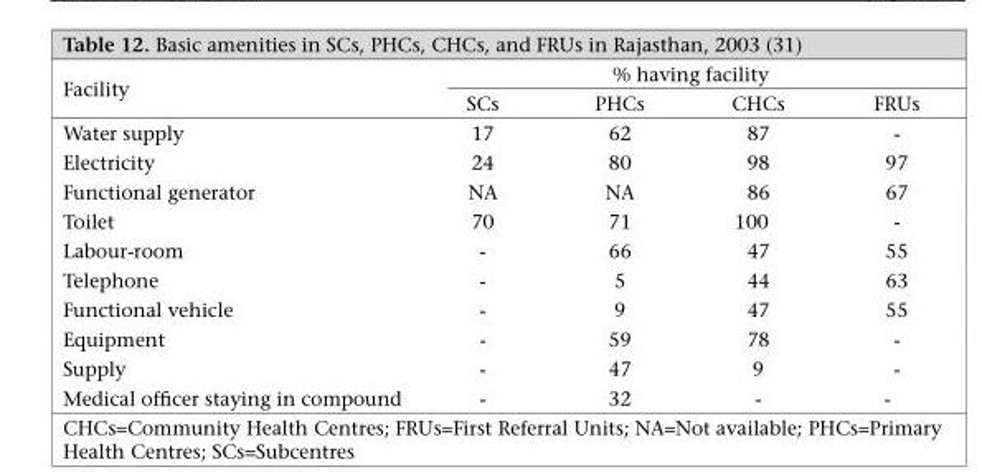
<table><thead><tr><td rowspan="2">Facility</td><td colspan="4">% having facility</td></tr><tr><td>SCs</td><td>PHCs</td><td>CHCs</td><td>FRUs</td></tr></thead><tbody><tr><td>Water supply</td><td>17</td><td>62</td><td>87</td><td>-</td></tr><tr><td>Electricity</td><td>24</td><td>80</td><td>98</td><td>97</td></tr><tr><td>Functional generator</td><td>NA</td><td>NA</td><td>86</td><td>67</td></tr><tr><td>Toilet</td><td>70</td><td>71</td><td>100</td><td>-</td></tr><tr><td>Labour-room</td><td>-</td><td>66</td><td>47</td><td>55</td></tr><tr><td>Telephone</td><td>-</td><td>5</td><td>44</td><td>63</td></tr><tr><td>Functional vehicle</td><td>-</td><td>9</td><td>47</td><td>55</td></tr><tr><td>Equipment</td><td>-</td><td>59</td><td>78</td><td>-</td></tr><tr><td>Supply</td><td>-</td><td>47</td><td>9</td><td>-</td></tr><tr><td>Medical officer staying in compound</td><td>-</td><td>32</td><td>-</td><td>-</td></tr></tbody></table>